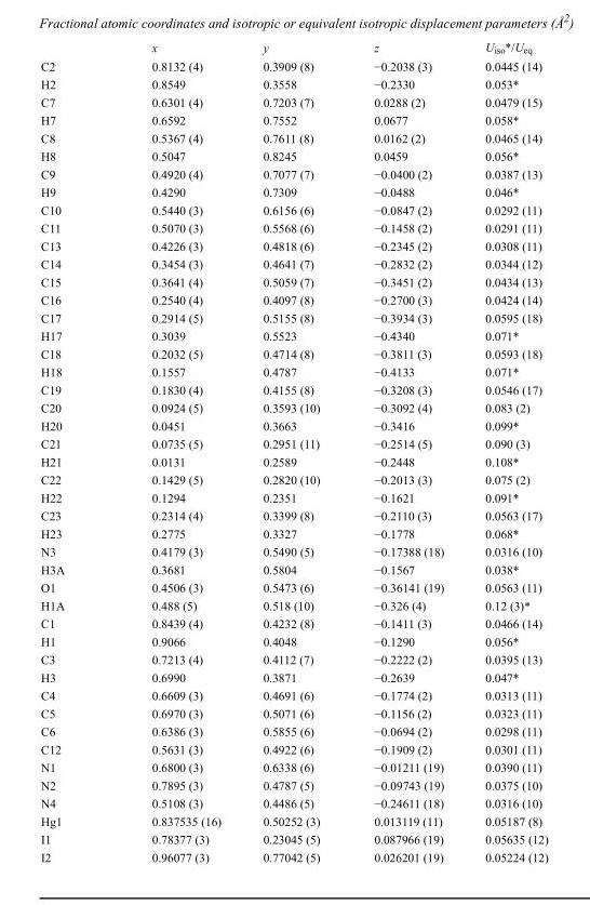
<table><thead><tr><td></td><td>x</td><td>y</td><td>z</td><td>U<sub>iso</sub>*/U<sub>eq</sub></td></tr></thead><tbody><tr><td>C2</td><td>0.8132 (4)</td><td>0.3909 (8)</td><td>−0.2038 (3)</td><td>0.0445 (14)</td></tr><tr><td>H2</td><td>0.8549</td><td>0.3558</td><td>−0.2330</td><td>0.053*</td></tr><tr><td>C7</td><td>0.6301 (4)</td><td>0.7203 (7)</td><td>0.0288 (2)</td><td>0.0479 (15)</td></tr><tr><td>H7</td><td>0.6592</td><td>0.7552</td><td>0.0677</td><td>0.058*</td></tr><tr><td>C8</td><td>0.5367 (4)</td><td>0.7611 (8)</td><td>0.0162 (2)</td><td>0.0465 (14)</td></tr><tr><td>H8</td><td>0.5047</td><td>0.8245</td><td>0.0459</td><td>0.056*</td></tr><tr><td>C9</td><td>0.4920 (4)</td><td>0.7077 (7)</td><td>−0.0400 (2)</td><td>0.0387 (13)</td></tr><tr><td>H9</td><td>0.4290</td><td>0.7309</td><td>−0.0488</td><td>0.046*</td></tr><tr><td>C10</td><td>0.5440 (3)</td><td>0.6156 (6)</td><td>−0.0847 (2)</td><td>0.0292 (11)</td></tr><tr><td>C11</td><td>0.5070 (3)</td><td>0.5568 (6)</td><td>−0.1458 (2)</td><td>0.0291 (11)</td></tr><tr><td>C13</td><td>0.4226 (3)</td><td>0.4818 (6)</td><td>−0.2345 (2)</td><td>0.0308 (11)</td></tr><tr><td>C14</td><td>0.3454 (3)</td><td>0.4641 (7)</td><td>−0.2832 (2)</td><td>0.0344 (12)</td></tr><tr><td>C15</td><td>0.3641 (4)</td><td>0.5059 (7)</td><td>−0.3451 (2)</td><td>0.0434 (13)</td></tr><tr><td>C16</td><td>0.2540 (4)</td><td>0.4097 (8)</td><td>−0.2700 (3)</td><td>0.0424 (14)</td></tr><tr><td>C17</td><td>0.2914 (5)</td><td>0.5155 (8)</td><td>−0.3934 (3)</td><td>0.0595 (18)</td></tr><tr><td>H17</td><td>0.3039</td><td>0.5523</td><td>−0.4340</td><td>0.071*</td></tr><tr><td>C18</td><td>0.2032 (5)</td><td>0.4714 (8)</td><td>−0.3811 (3)</td><td>0.0593 (18)</td></tr><tr><td>H18</td><td>0.1557</td><td>0.4787</td><td>−0.4133</td><td>0.071*</td></tr><tr><td>C19</td><td>0.1830 (4)</td><td>0.4155 (8)</td><td>−0.3208 (3)</td><td>0.0546 (17)</td></tr><tr><td>C20</td><td>0.0924 (5)</td><td>0.3593 (10)</td><td>−0.3092 (4)</td><td>0.083 (2)</td></tr><tr><td>H20</td><td>0.0451</td><td>0.3663</td><td>−0.3416</td><td>0.099*</td></tr><tr><td>C21</td><td>0.0735 (5)</td><td>0.2951 (11)</td><td>−0.2514 (5)</td><td>0.090 (3)</td></tr><tr><td>H21</td><td>0.0131</td><td>0.2589</td><td>−0.2448</td><td>0.108*</td></tr><tr><td>C22</td><td>0.1429 (5)</td><td>0.2820 (10)</td><td>−0.2013 (3)</td><td>0.075 (2)</td></tr><tr><td>H22</td><td>0.1294</td><td>0.2351</td><td>−0.1621</td><td>0.091*</td></tr><tr><td>C23</td><td>0.2314 (4)</td><td>0.3399 (8)</td><td>−0.2110 (3)</td><td>0.0563 (17)</td></tr><tr><td>H23</td><td>0.2775</td><td>0.3327</td><td>−0.1778</td><td>0.068*</td></tr><tr><td>N3</td><td>0.4179 (3)</td><td>0.5490 (5)</td><td>−0.17388 (18)</td><td>0.0316 (10)</td></tr><tr><td>H3A</td><td>0.3681</td><td>0.5804</td><td>−0.1567</td><td>0.038*</td></tr><tr><td>O1</td><td>0.4506 (3)</td><td>0.5473 (6)</td><td>−0.36141 (19)</td><td>0.0563 (11)</td></tr><tr><td>H1A</td><td>0.488 (5)</td><td>0.518 (10)</td><td>−0.326 (4)</td><td>0.12 (3)*</td></tr><tr><td>C1</td><td>0.8439 (4)</td><td>0.4232 (8)</td><td>−0.1411 (3)</td><td>0.0466 (14)</td></tr><tr><td>H1</td><td>0.9066</td><td>0.4048</td><td>−0.1290</td><td>0.056*</td></tr><tr><td>C3</td><td>0.7213 (4)</td><td>0.4112 (7)</td><td>−0.2222 (2)</td><td>0.0395 (13)</td></tr><tr><td>H3</td><td>0.6990</td><td>0.3871</td><td>−0.2639</td><td>0.047*</td></tr><tr><td>C4</td><td>0.6609 (3)</td><td>0.4691 (6)</td><td>−0.1774 (2)</td><td>0.0313 (11)</td></tr><tr><td>C5</td><td>0.6970 (3)</td><td>0.5071 (6)</td><td>−0.1156 (2)</td><td>0.0323 (11)</td></tr><tr><td>C6</td><td>0.6386 (3)</td><td>0.5855 (6)</td><td>−0.0694 (2)</td><td>0.0298 (11)</td></tr><tr><td>C12</td><td>0.5631 (3)</td><td>0.4922 (6)</td><td>−0.1909 (2)</td><td>0.0301 (11)</td></tr><tr><td>N1</td><td>0.6800 (3)</td><td>0.6338 (6)</td><td>−0.01211 (19)</td><td>0.0390 (11)</td></tr><tr><td>N2</td><td>0.7895 (3)</td><td>0.4787 (5)</td><td>−0.09743 (19)</td><td>0.0375 (10)</td></tr><tr><td>N4</td><td>0.5108 (3)</td><td>0.4486 (5)</td><td>−0.24611 (18)</td><td>0.0316 (10)</td></tr><tr><td>Hg1</td><td>0.837535 (16)</td><td>0.50252 (3)</td><td>0.013119 (11)</td><td>0.05187 (8)</td></tr><tr><td>I1</td><td>0.78377 (3)</td><td>0.23045 (5)</td><td>0.087966 (19)</td><td>0.05635 (12)</td></tr><tr><td>I2</td><td>0.96077 (3)</td><td>0.77042 (5)</td><td>0.026201 (19)</td><td>0.05224 (12)</td></tr></tbody></table>